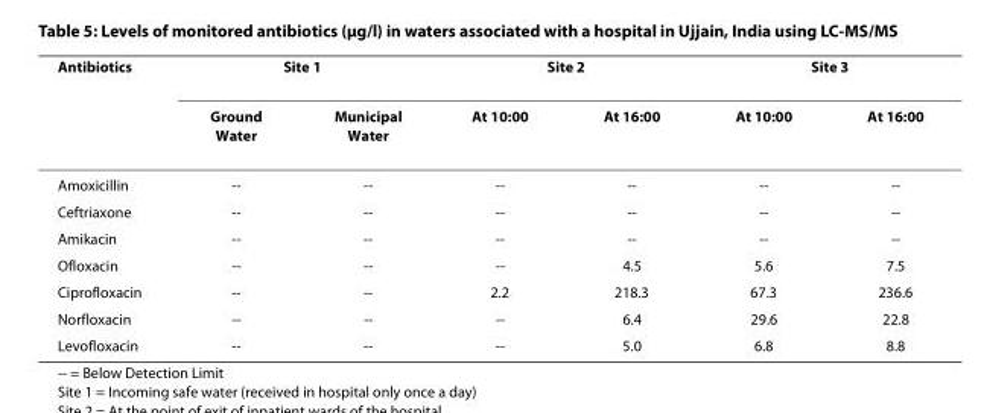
<table><thead><tr><td rowspan="2">Antibiotics</td><td colspan="2">Site 1</td><td colspan="2">Site 2</td><td colspan="2">Site 3</td></tr><tr><td>Ground Water</td><td>Municipal Water</td><td>At 10:00</td><td>At 16:00</td><td>At 10:00</td><td>At 16:00</td></tr></thead><tbody><tr><td>Amoxicillin</td><td>--</td><td>--</td><td>--</td><td>--</td><td>--</td><td>--</td></tr><tr><td>Ceftriaxone</td><td>--</td><td>--</td><td>--</td><td>--</td><td>--</td><td>--</td></tr><tr><td>Amikacin</td><td>--</td><td>--</td><td>--</td><td>--</td><td>--</td><td>--</td></tr><tr><td>Ofloxacin</td><td>--</td><td>--</td><td>--</td><td>4.5</td><td>5.6</td><td>7.5</td></tr><tr><td>Ciprofloxacin</td><td>--</td><td>--</td><td>2.2</td><td>218.3</td><td>67.3</td><td>236.6</td></tr><tr><td>Norfloxacin</td><td>--</td><td>--</td><td>--</td><td>6.4</td><td>29.6</td><td>22.8</td></tr><tr><td>Levofloxacin</td><td>--</td><td>--</td><td>--</td><td>5.0</td><td>6.8</td><td>8.8</td></tr></tbody></table>